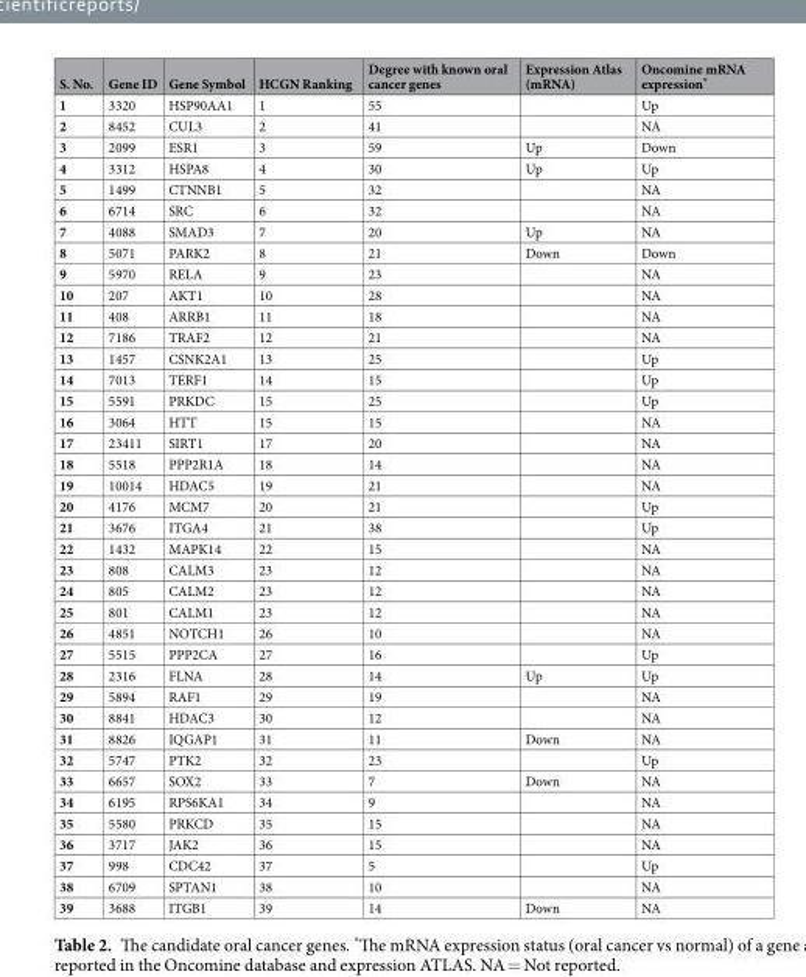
<table><thead><tr><td>S. No.</td><td>Gene ID</td><td>Gene Symbol</td><td>HCGN Ranking</td><td>Degree with known oral cancer genes</td><td>Expression Atlas (mRNA)</td><td>Oncomine mRNA expression*</td></tr></thead><tbody><tr><td>1</td><td>3320</td><td>HSP90AA1</td><td>1</td><td>55</td><td></td><td>Up</td></tr><tr><td>2</td><td>8452</td><td>CUL3</td><td>2</td><td>41</td><td></td><td>NA</td></tr><tr><td>3</td><td>2099</td><td>ESR1</td><td>3</td><td>59</td><td>Up</td><td>Down</td></tr><tr><td>4</td><td>3312</td><td>HSPA8</td><td>4</td><td>30</td><td>Up</td><td>Up</td></tr><tr><td>5</td><td>1499</td><td>CTNNB1</td><td>5</td><td>32</td><td></td><td>NA</td></tr><tr><td>6</td><td>6714</td><td>SRC</td><td>6</td><td>32</td><td></td><td>NA</td></tr><tr><td>7</td><td>4088</td><td>SMAD3</td><td>7</td><td>20</td><td>Up</td><td>NA</td></tr><tr><td>8</td><td>5071</td><td>PARK2</td><td>8</td><td>21</td><td>Down</td><td>Down</td></tr><tr><td>9</td><td>5970</td><td>RELA</td><td>9</td><td>23</td><td></td><td>NA</td></tr><tr><td>10</td><td>207</td><td>AKT1</td><td>10</td><td>28</td><td></td><td>NA</td></tr><tr><td>11</td><td>408</td><td>ARRB1</td><td>11</td><td>18</td><td></td><td>NA</td></tr><tr><td>12</td><td>7186</td><td>TRAF2</td><td>12</td><td>21</td><td></td><td>NA</td></tr><tr><td>13</td><td>1457</td><td>CSNK2A1</td><td>13</td><td>25</td><td></td><td>Up</td></tr><tr><td>14</td><td>7013</td><td>TERF1</td><td>14</td><td>15</td><td></td><td>Up</td></tr><tr><td>15</td><td>5591</td><td>PRKDC</td><td>15</td><td>25</td><td></td><td>Up</td></tr><tr><td>16</td><td>3064</td><td>HTT</td><td>15</td><td>15</td><td></td><td>NA</td></tr><tr><td>17</td><td>23411</td><td>SIRT1</td><td>17</td><td>20</td><td></td><td>NA</td></tr><tr><td>18</td><td>5518</td><td>PPP2R1A</td><td>18</td><td>14</td><td></td><td>NA</td></tr><tr><td>19</td><td>10014</td><td>HDAC5</td><td>19</td><td>21</td><td></td><td>NA</td></tr><tr><td>20</td><td>4176</td><td>MCM7</td><td>20</td><td>21</td><td></td><td>Up</td></tr><tr><td>21</td><td>3676</td><td>ITGA4</td><td>21</td><td>38</td><td></td><td>Up</td></tr><tr><td>22</td><td>1432</td><td>MAPK14</td><td>22</td><td>15</td><td></td><td>NA</td></tr><tr><td>23</td><td>808</td><td>CALM3</td><td>23</td><td>12</td><td></td><td>NA</td></tr><tr><td>24</td><td>805</td><td>CALM2</td><td>23</td><td>12</td><td></td><td>NA</td></tr><tr><td>25</td><td>801</td><td>CALM1</td><td>23</td><td>12</td><td></td><td>NA</td></tr><tr><td>26</td><td>4851</td><td>NOTCH1</td><td>26</td><td>10</td><td></td><td>NA</td></tr><tr><td>27</td><td>5515</td><td>PPP2CA</td><td>27</td><td>16</td><td></td><td>Up</td></tr><tr><td>28</td><td>2316</td><td>FLNA</td><td>28</td><td>14</td><td>Up</td><td>Up</td></tr><tr><td>29</td><td>5894</td><td>RAF1</td><td>29</td><td>19</td><td></td><td>NA</td></tr><tr><td>30</td><td>8841</td><td>HDAC3</td><td>30</td><td>12</td><td></td><td>NA</td></tr><tr><td>31</td><td>8826</td><td>IQGAP1</td><td>31</td><td>11</td><td>Down</td><td>NA</td></tr><tr><td>32</td><td>5747</td><td>PTK2</td><td>32</td><td>23</td><td></td><td>Up</td></tr><tr><td>33</td><td>6657</td><td>SOX2</td><td>33</td><td>7</td><td>Down</td><td>NA</td></tr><tr><td>34</td><td>6195</td><td>RPS6KA1</td><td>34</td><td>9</td><td></td><td>NA</td></tr><tr><td>35</td><td>5580</td><td>PRKCD</td><td>35</td><td>15</td><td></td><td>NA</td></tr><tr><td>36</td><td>3717</td><td>JAK2</td><td>36</td><td>15</td><td></td><td>NA</td></tr><tr><td>37</td><td>998</td><td>CDC42</td><td>37</td><td>5</td><td></td><td>Up</td></tr><tr><td>38</td><td>6709</td><td>SPTAN1</td><td>38</td><td>10</td><td></td><td>NA</td></tr><tr><td>39</td><td>3688</td><td>ITGB1</td><td>39</td><td>14</td><td>Down</td><td>NA</td></tr></tbody></table>